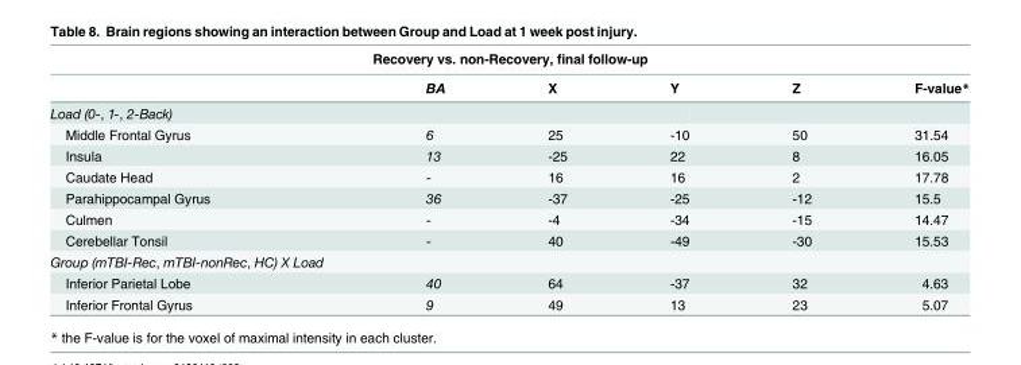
<table><thead><tr><td colspan="6">Recovery vs. non-Recovery, final follow-up</td></tr><tr><td></td><td>BA</td><td>X</td><td>Y</td><td>Z</td><td>F-value*</td></tr></thead><tbody><tr><td colspan="6">Load (0-, 1-, 2-Back)</td></tr><tr><td>Middle Frontal Gyrus</td><td>6</td><td>25</td><td>-10</td><td>50</td><td>31.54</td></tr><tr><td>Insula</td><td>13</td><td>-25</td><td>22</td><td>8</td><td>16.05</td></tr><tr><td>Caudate Head</td><td>-</td><td>16</td><td>16</td><td>2</td><td>17.78</td></tr><tr><td>Parahippocampal Gyrus</td><td>36</td><td>-37</td><td>-25</td><td>-12</td><td>15.5</td></tr><tr><td>Culmen</td><td>-</td><td>-4</td><td>-34</td><td>-15</td><td>14.47</td></tr><tr><td>Cerebellar Tonsil</td><td>-</td><td>40</td><td>-49</td><td>-30</td><td>15.53</td></tr><tr><td colspan="6">Group (mTBI-Rec, mTBI-nonRec, HC) X Load</td></tr><tr><td>Inferior Parietal Lobe</td><td>40</td><td>64</td><td>-37</td><td>32</td><td>4.63</td></tr><tr><td>Inferior Frontal Gyrus</td><td>9</td><td>49</td><td>13</td><td>23</td><td>5.07</td></tr></tbody></table>